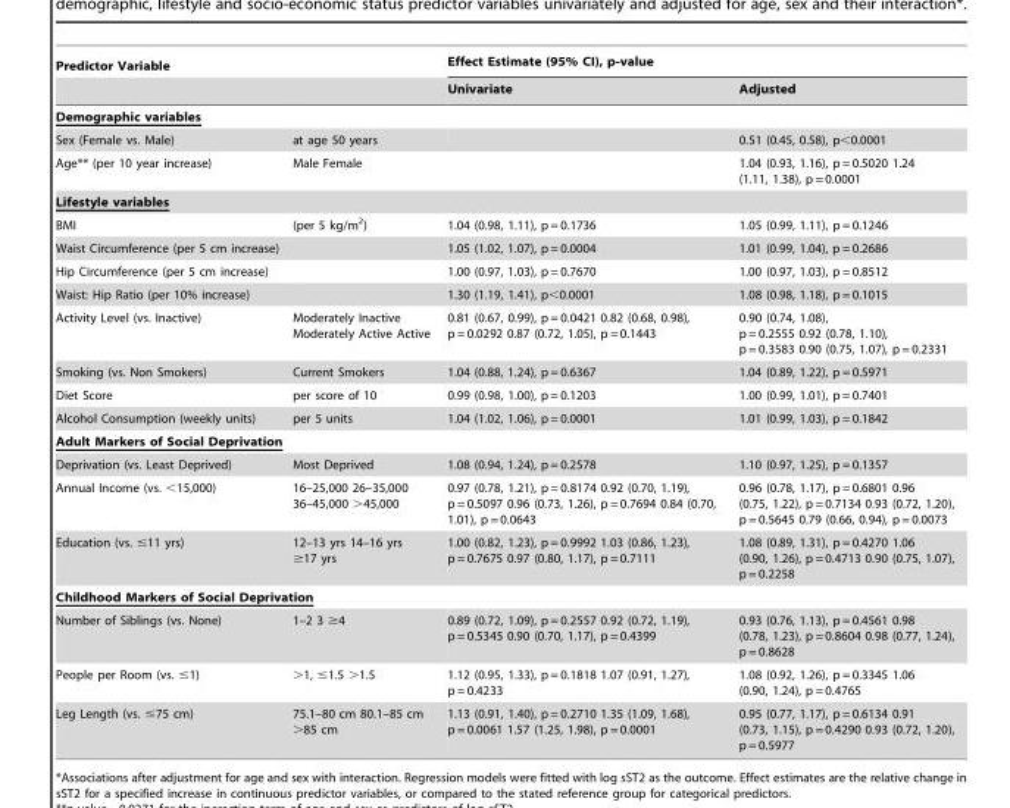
<table><thead><tr><td rowspan="2">Predictor Variable</td><td rowspan="2"></td><td colspan="2">Effect Estimate (95% CI), p-value</td></tr><tr><td>Univariate</td><td>Adjusted</td></tr></thead><tbody><tr><td colspan="4">Demographic variables</td></tr><tr><td>Sex (Female vs. Male)</td><td>at age 50 years</td><td></td><td>0.51 (0.45, 0.58), p&lt;0.0001</td></tr><tr><td>Age** (per 10 year increase)</td><td>Male Female</td><td></td><td>1.04 (0.93, 1.16), p = 0.5020 1.24 (1.11, 1.38), p = 0.0001</td></tr><tr><td colspan="4">Lifestyle variables</td></tr><tr><td>BMI</td><td>(per 5 kg/m<sup>2</sup>)</td><td>1.04 (0.98, 1.11), p = 0.1736</td><td>1.05 (0.99, 1.11), p = 0.1246</td></tr><tr><td>Waist Circumference (per 5 cm increase)</td><td></td><td>1.05 (1.02, 1.07), p = 0.0004</td><td>1.01 (0.99, 1.04), p = 0.2686</td></tr><tr><td>Hip Circumference (per 5 cm increase)</td><td></td><td>1.00 (0.97, 1.03), p = 0.7670</td><td>1.00 (0.97, 1.03), p = 0.8512</td></tr><tr><td>Waist: Hip Ratio (per 10% increase)</td><td></td><td>1.30 (1.19, 1.41), p&lt;0.0001</td><td>1.08 (0.98, 1.18), p = 0.1015</td></tr><tr><td>Activity Level (vs. Inactive)</td><td>Moderately Inactive Moderately Active Active</td><td>0.81 (0.67, 0.99), p = 0.0421 0.82 (0.68, 0.98), p = 0.0292 0.87 (0.72, 1.05), p = 0.1443</td><td>0.90 (0.74, 1.08), p = 0.2555 0.92 (0.78, 1.10), p = 0.3583 0.90 (0.75, 1.07), p = 0.2331</td></tr><tr><td>Smoking (vs. Non Smokers)</td><td>Current Smokers</td><td>1.04 (0.88, 1.24), p = 0.6367</td><td>1.04 (0.89, 1.22), p = 0.5971</td></tr><tr><td>Diet Score</td><td>per score of 10</td><td>0.99 (0.98, 1.00), p = 0.1203</td><td>1.00 (0.99, 1.01), p = 0.7401</td></tr><tr><td>Alcohol Consumption (weekly units)</td><td>per 5 units</td><td>1.04 (1.02, 1.06), p = 0.0001</td><td>1.01 (0.99, 1.03), p = 0.1842</td></tr><tr><td colspan="4">Adult Markers of Social Deprivation</td></tr><tr><td>Deprivation (vs. Least Deprived)</td><td>Most Deprived</td><td>1.08 (0.94, 1.24), p = 0.2578</td><td>1.10 (0.97, 1.25), p = 0.1357</td></tr><tr><td>Annual Income (vs. &lt;15,000)</td><td>16–25,000 26–35,000 36–45,000 &gt;45,000</td><td>0.97 (0.78, 1.21), p = 0.8174 0.92 (0.70, 1.19), p = 0.5097 0.96 (0.73, 1.26), p = 0.7694 0.84 (0.70, 1.01), p = 0.0643</td><td>0.96 (0.78, 1.17), p = 0.6801 0.96 (0.75, 1.22), p = 0.7134 0.93 (0.72, 1.20), p = 0.5645 0.79 (0.66, 0.94), p = 0.0073</td></tr><tr><td>Education (vs. ≤11 yrs)</td><td>12–13 yrs 14–16 yrs ≥17 yrs</td><td>1.00 (0.82, 1.23), p = 0.9992 1.03 (0.86, 1.23), p = 0.7675 0.97 (0.80, 1.17), p = 0.7111</td><td>1.08 (0.89, 1.31), p = 0.4270 1.06 (0.90, 1.26), p = 0.4713 0.90 (0.75, 1.07), p = 0.2258</td></tr><tr><td colspan="4">Childhood Markers of Social Deprivation</td></tr><tr><td>Number of Siblings (vs. None)</td><td>1–2 3 ≥4</td><td>0.89 (0.72, 1.09), p = 0.2557 0.92 (0.72, 1.19), p = 0.5345 0.90 (0.70, 1.17), p = 0.4399</td><td>0.93 (0.76, 1.13), p = 0.4561 0.98 (0.78, 1.23), p = 0.8604 0.98 (0.77, 1.24), p = 0.8628</td></tr><tr><td>People per Room (vs. ≤1)</td><td>&gt;1, ≤1.5 &gt;1.5</td><td>1.12 (0.95, 1.33), p = 0.1818 1.07 (0.91, 1.27), p = 0.4233</td><td>1.08 (0.92, 1.26), p = 0.3345 1.06 (0.90, 1.24), p = 0.4765</td></tr><tr><td>Leg Length (vs. ≤75 cm)</td><td>75.1–80 cm 80.1–85 cm &gt;85 cm</td><td>1.13 (0.91, 1.40), p = 0.2710 1.35 (1.09, 1.68), p = 0.0061 1.57 (1.25, 1.98), p = 0.0001</td><td>0.95 (0.77, 1.17), p = 0.6134 0.91 (0.73, 1.15), p = 0.4290 0.93 (0.72, 1.20), p = 0.5977</td></tr></tbody></table>